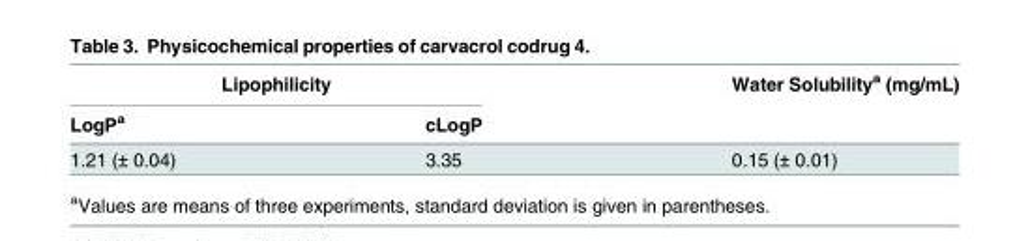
<table><thead><tr><td colspan="2">Lipophilicity</td><td rowspan="2">Water Solubility<sup>a</sup> (mg/mL)</td></tr><tr><td>LogP<sup>a</sup></td><td>cLogP</td></tr></thead><tbody><tr><td>1.21 (± 0.04)</td><td>3.35</td><td>0.15 (± 0.01)</td></tr></tbody></table>